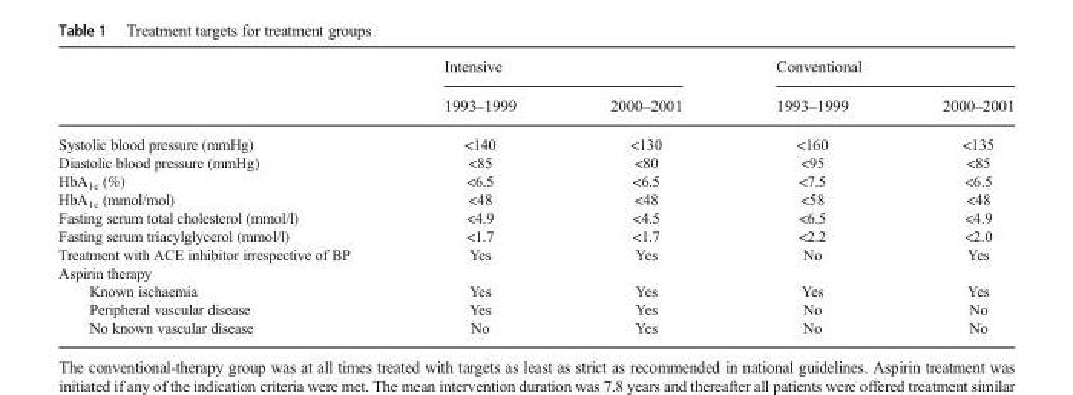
<table><thead><tr><td rowspan="2"></td><td colspan="2">Intensive</td><td colspan="2">Conventional</td></tr><tr><td>1993–1999</td><td>2000–2001</td><td>1993–1999</td><td>2000–2001</td></tr></thead><tbody><tr><td>Systolic blood pressure (mmHg)</td><td>&lt;140</td><td>&lt;130</td><td>&lt;160</td><td>&lt;135</td></tr><tr><td>Diastolic blood pressure (mmHg)</td><td>&lt;85</td><td>&lt;80</td><td>&lt;95</td><td>&lt;85</td></tr><tr><td>HbA<sub>1c</sub> (%)</td><td>&lt;6.5</td><td>&lt;6.5</td><td>&lt;7.5</td><td>&lt;6.5</td></tr><tr><td>HbA<sub>1c</sub> (mmol/mol)</td><td>&lt;48</td><td>&lt;48</td><td>&lt;58</td><td>&lt;48</td></tr><tr><td>Fasting serum total cholesterol (mmol/l)</td><td>&lt;4.9</td><td>&lt;4.5</td><td>&lt;6.5</td><td>&lt;4.9</td></tr><tr><td>Fasting serum triacylglycerol (mmol/l)</td><td>&lt;1.7</td><td>&lt;1.7</td><td>&lt;2.2</td><td>&lt;2.0</td></tr><tr><td>Treatment with ACE inhibitor irrespective of BP</td><td>Yes</td><td>Yes</td><td>No</td><td>Yes</td></tr><tr><td colspan="5">Aspirin therapy</td></tr><tr><td>Known ischaemia</td><td>Yes</td><td>Yes</td><td>Yes</td><td>Yes</td></tr><tr><td>Peripheral vascular disease</td><td>Yes</td><td>Yes</td><td>No</td><td>No</td></tr><tr><td>No known vascular disease</td><td>No</td><td>Yes</td><td>No</td><td>No</td></tr></tbody></table>